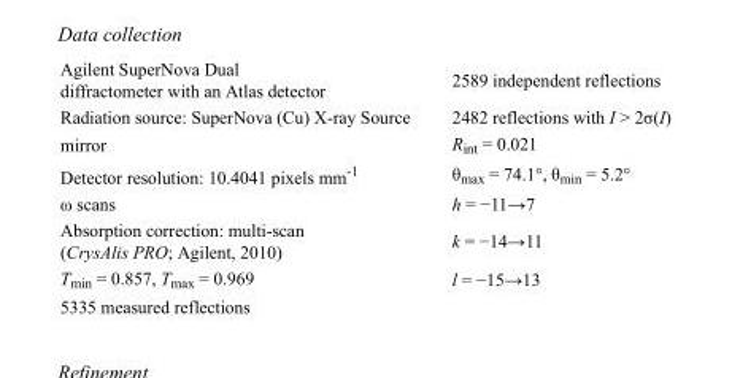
<table><tbody><tr><td>Agilent SuperNova Dual diffractometer with an Atlas detector</td><td>2589 independent reflections</td></tr><tr><td>Radiation source: SuperNova (Cu) X-ray Source</td><td>2482 reflections with I &gt; 2σ(I)</td></tr><tr><td>mirror</td><td>R<sub>int</sub> = 0.021</td></tr><tr><td>Detector resolution: 10.4041 pixels mm<sup>-1</sup></td><td>θ<sub>max</sub> = 74.1°, θ<sub>min</sub> = 5.2°</td></tr><tr><td>ω scans</td><td>h = −11→7</td></tr><tr><td>Absorption correction: multi-scan (CrysAlis PRO; Agilent, 2010)</td><td>k = −14→11</td></tr><tr><td>T<sub>min</sub> = 0.857, T<sub>max</sub> = 0.969</td><td>l = −15→13</td></tr><tr><td>5335 measured reflections</td><td></td></tr></tbody></table>